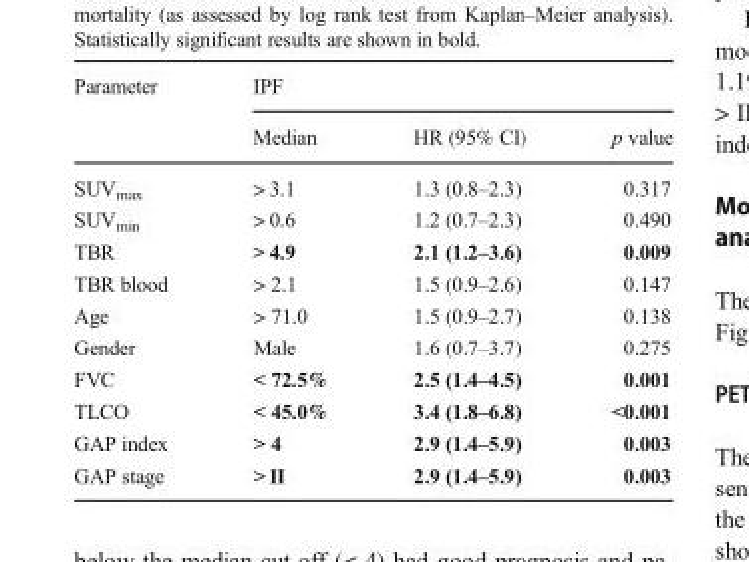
<table><thead><tr><td rowspan="2">Parameter</td><td colspan="3">IPF</td></tr><tr><td>Median</td><td>HR (95% CI)</td><td>p value</td></tr></thead><tbody><tr><td>SUV<sub>max</sub></td><td>&gt; 3.1</td><td>1.3 (0.8–2.3)</td><td>0.317</td></tr><tr><td>SUV<sub>min</sub></td><td>&gt; 0.6</td><td>1.2 (0.7–2.3)</td><td>0.490</td></tr><tr><td>TBR</td><td>&gt; 4.9</td><td>2.1 (1.2–3.6)</td><td>0.009</td></tr><tr><td>TBR blood</td><td>&gt; 2.1</td><td>1.5 (0.9–2.6)</td><td>0.147</td></tr><tr><td>Age</td><td>&gt; 71.0</td><td>1.5 (0.9–2.7)</td><td>0.138</td></tr><tr><td>Gender</td><td>Male</td><td>1.6 (0.7–3.7)</td><td>0.275</td></tr><tr><td>FVC</td><td>&lt; 72.5%</td><td>2.5 (1.4–4.5)</td><td>0.001</td></tr><tr><td>TLCO</td><td>&lt; 45.0%</td><td>3.4 (1.8–6.8)</td><td>&lt;0.001</td></tr><tr><td>GAP index</td><td>&gt; 4</td><td>2.9 (1.4–5.9)</td><td>0.003</td></tr><tr><td>GAP stage</td><td>&gt; II</td><td>2.9 (1.4–5.9)</td><td>0.003</td></tr></tbody></table>